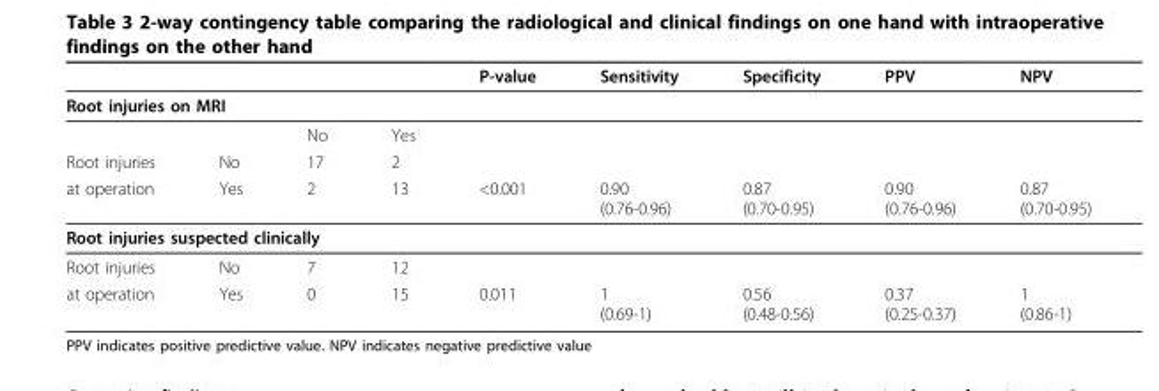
<table><thead><tr><td></td><td></td><td></td><td></td><td>P-value</td><td>Sensitivity</td><td>Specificity</td><td>PPV</td><td>NPV</td></tr></thead><tbody><tr><td colspan="9">Root injuries on MRI</td></tr><tr><td></td><td></td><td>No</td><td>Yes</td><td></td><td></td><td></td><td></td><td></td></tr><tr><td>Root injuries</td><td>No</td><td>17</td><td>2</td><td></td><td></td><td></td><td></td><td></td></tr><tr><td>at operation</td><td>Yes</td><td>2</td><td>13</td><td>&lt;0.001</td><td>0.90 (0.76-0.96)</td><td>0.87 (0.70-0.95)</td><td>0.90 (0.76-0.96)</td><td>0.87 (0.70-0.95)</td></tr><tr><td colspan="9">Root injuries suspected clinically</td></tr><tr><td>Root injuries</td><td>No</td><td>7</td><td>12</td><td></td><td></td><td></td><td></td><td></td></tr><tr><td>at operation</td><td>Yes</td><td>0</td><td>15</td><td>0.011</td><td>1 (0.69-1)</td><td>0.56 (0.48-0.56)</td><td>0.37 (0.25-0.37)</td><td>1 (0.86-1)</td></tr></tbody></table>